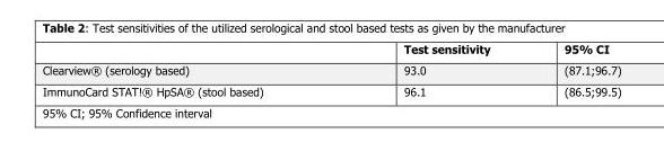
<table><thead><tr><td></td><td>Test sensitivity</td><td>95% CI</td></tr></thead><tbody><tr><td>Clearview<sup>®</sup> (serology based)</td><td>93.0</td><td>(87.1;96.7)</td></tr><tr><td>ImmunoCard STAT!<sup>®</sup> HpSA<sup>®</sup> (stool based)</td><td>96.1</td><td>(86.5;99.5)</td></tr></tbody></table>